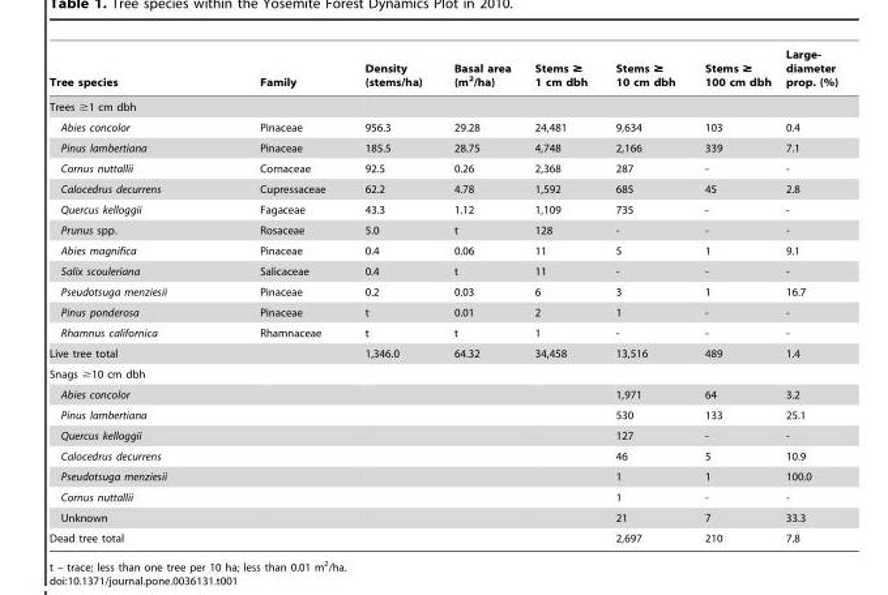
<table><thead><tr><td>Tree species</td><td>Family</td><td>Density (stems/ha)</td><td>Basal area (m<sup>2</sup>/ha)</td><td>Stems ≥ 1 cm dbh</td><td>Stems ≥ 10 cm dbh</td><td>Stems ≥ 100 cm dbh</td><td>Large- diameter prop. (%)</td></tr></thead><tbody><tr><td colspan="8">Trees ≥1 cm dbh</td></tr><tr><td>Abies concolor</td><td>Pinaceae</td><td>956.3</td><td>29.28</td><td>24,481</td><td>9,634</td><td>103</td><td>0.4</td></tr><tr><td>Pinus lambertiana</td><td>Pinaceae</td><td>185.5</td><td>28.75</td><td>4,748</td><td>2,166</td><td>339</td><td>7.1</td></tr><tr><td>Cornus nuttallii</td><td>Cornaceae</td><td>92.5</td><td>0.26</td><td>2,368</td><td>287</td><td>-</td><td>-</td></tr><tr><td>Calocedrus decurrens</td><td>Cupressaceae</td><td>62.2</td><td>4.78</td><td>1,592</td><td>685</td><td>45</td><td>2.8</td></tr><tr><td>Quercus kelloggii</td><td>Fagaceae</td><td>43.3</td><td>1.12</td><td>1,109</td><td>735</td><td>-</td><td>-</td></tr><tr><td>Prunus spp.</td><td>Rosaceae</td><td>5.0</td><td>t</td><td>128</td><td>-</td><td>-</td><td>-</td></tr><tr><td>Abies magnifica</td><td>Pinaceae</td><td>0.4</td><td>0.06</td><td>11</td><td>5</td><td>1</td><td>9.1</td></tr><tr><td>Salix scouleriana</td><td>Salicaceae</td><td>0.4</td><td>t</td><td>11</td><td>-</td><td>-</td><td>-</td></tr><tr><td>Pseudotsuga menziesii</td><td>Pinaceae</td><td>0.2</td><td>0.03</td><td>6</td><td>3</td><td>1</td><td>16.7</td></tr><tr><td>Pinus ponderosa</td><td>Pinaceae</td><td>t</td><td>0.01</td><td>2</td><td>1</td><td>-</td><td>-</td></tr><tr><td>Rhamnus californica</td><td>Rhamnaceae</td><td>t</td><td>t</td><td>1</td><td>-</td><td>-</td><td>-</td></tr><tr><td>Live tree total</td><td></td><td>1,346.0</td><td>64.32</td><td>34,458</td><td>13,516</td><td>489</td><td>1.4</td></tr><tr><td colspan="8">Snags ≥10 cm dbh</td></tr><tr><td>Abies concolor</td><td></td><td></td><td></td><td></td><td>1,971</td><td>64</td><td>3.2</td></tr><tr><td>Pinus lambertiana</td><td></td><td></td><td></td><td></td><td>530</td><td>133</td><td>25.1</td></tr><tr><td>Quercus kelloggii</td><td></td><td></td><td></td><td></td><td>127</td><td>-</td><td>-</td></tr><tr><td>Calocedrus decurrens</td><td></td><td></td><td></td><td></td><td>46</td><td>5</td><td>10.9</td></tr><tr><td>Pseudotsuga menziesii</td><td></td><td></td><td></td><td></td><td>1</td><td>1</td><td>100.0</td></tr><tr><td>Cornus nuttallii</td><td></td><td></td><td></td><td></td><td>1</td><td>-</td><td>-</td></tr><tr><td>Unknown</td><td></td><td></td><td></td><td></td><td>21</td><td>7</td><td>33.3</td></tr><tr><td>Dead tree total</td><td></td><td></td><td></td><td></td><td>2,697</td><td>210</td><td>7.8</td></tr></tbody></table>